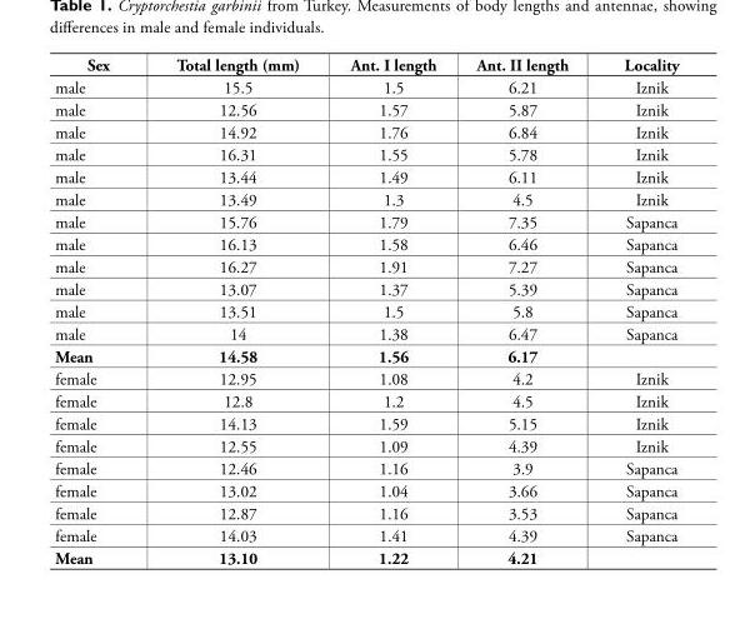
<table><thead><tr><td>Sex</td><td>Total length (mm)</td><td>Ant. I length</td><td>Ant. II length</td><td>Locality</td></tr></thead><tbody><tr><td>male</td><td>15.5</td><td>1.5</td><td>6.21</td><td>Iznik</td></tr><tr><td>male</td><td>12.56</td><td>1.57</td><td>5.87</td><td>Iznik</td></tr><tr><td>male</td><td>14.92</td><td>1.76</td><td>6.84</td><td>Iznik</td></tr><tr><td>male</td><td>16.31</td><td>1.55</td><td>5.78</td><td>Iznik</td></tr><tr><td>male</td><td>13.44</td><td>1.49</td><td>6.11</td><td>Iznik</td></tr><tr><td>male</td><td>13.49</td><td>1.3</td><td>4.5</td><td>Iznik</td></tr><tr><td>male</td><td>15.76</td><td>1.79</td><td>7.35</td><td>Sapanca</td></tr><tr><td>male</td><td>16.13</td><td>1.58</td><td>6.46</td><td>Sapanca</td></tr><tr><td>male</td><td>16.27</td><td>1.91</td><td>7.27</td><td>Sapanca</td></tr><tr><td>male</td><td>13.07</td><td>1.37</td><td>5.39</td><td>Sapanca</td></tr><tr><td>male</td><td>13.51</td><td>1.5</td><td>5.8</td><td>Sapanca</td></tr><tr><td>male</td><td>14</td><td>1.38</td><td>6.47</td><td>Sapanca</td></tr><tr><td>Mean</td><td>14.58</td><td>1.56</td><td>6.17</td><td></td></tr><tr><td>female</td><td>12.95</td><td>1.08</td><td>4.2</td><td>Iznik</td></tr><tr><td>female</td><td>12.8</td><td>1.2</td><td>4.5</td><td>Iznik</td></tr><tr><td>female</td><td>14.13</td><td>1.59</td><td>5.15</td><td>Iznik</td></tr><tr><td>female</td><td>12.55</td><td>1.09</td><td>4.39</td><td>Iznik</td></tr><tr><td>female</td><td>12.46</td><td>1.16</td><td>3.9</td><td>Sapanca</td></tr><tr><td>female</td><td>13.02</td><td>1.04</td><td>3.66</td><td>Sapanca</td></tr><tr><td>female</td><td>12.87</td><td>1.16</td><td>3.53</td><td>Sapanca</td></tr><tr><td>female</td><td>14.03</td><td>1.41</td><td>4.39</td><td>Sapanca</td></tr><tr><td>Mean</td><td>13.10</td><td>1.22</td><td>4.21</td><td></td></tr></tbody></table>